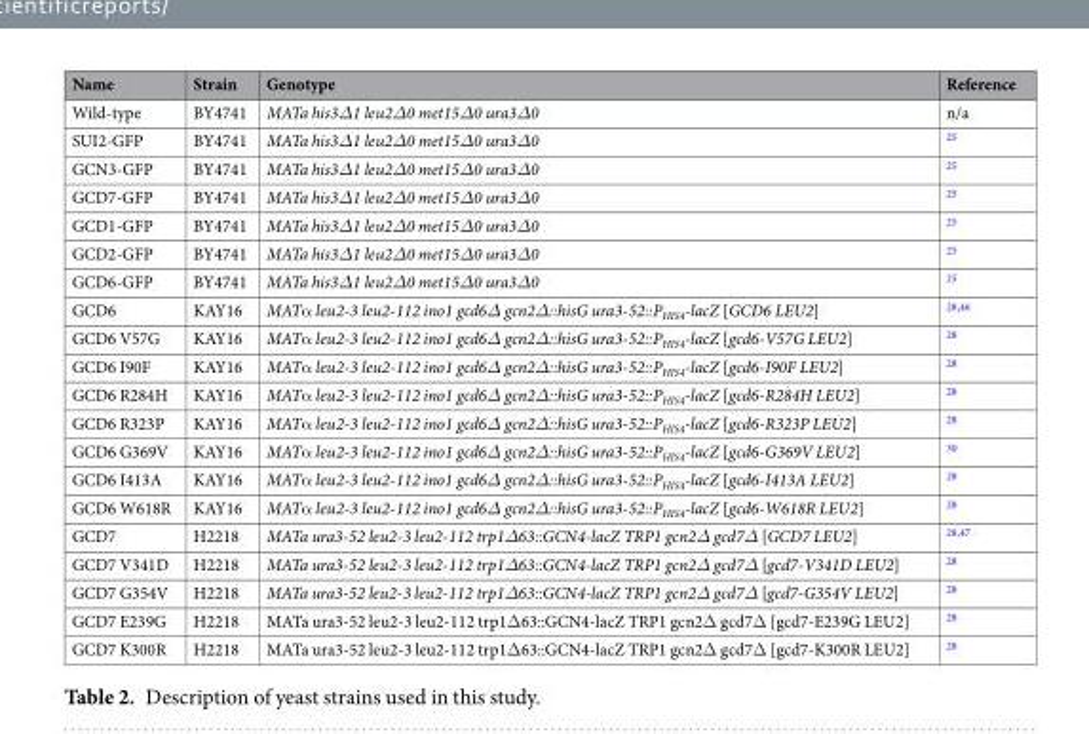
<table><thead><tr><td>Name</td><td>Strain</td><td>Genotype</td><td>Reference</td></tr></thead><tbody><tr><td>Wild-type</td><td>BY4741</td><td>MATa his3Δ1 leu2Δ0 met15Δ0 ura3Δ0</td><td>n/a</td></tr><tr><td>SUI2-GFP</td><td>BY4741</td><td>MATa his3Δ1 leu2Δ0 met15Δ0 ura3Δ0</td><td><sup>25</sup></td></tr><tr><td>GCN3-GFP</td><td>BY4741</td><td>MATa his3Δ1 leu2Δ0 met15Δ0 ura3Δ0</td><td><sup>25</sup></td></tr><tr><td>GCD7-GFP</td><td>BY4741</td><td>MATa his3Δ1 leu2Δ0 met15Δ0 ura3Δ0</td><td><sup>25</sup></td></tr><tr><td>GCD1-GFP</td><td>BY4741</td><td>MATa his3Δ1 leu2Δ0 met15Δ0 ura3Δ0</td><td><sup>25</sup></td></tr><tr><td>GCD2-GFP</td><td>BY4741</td><td>MATa his3Δ1 leu2Δ0 met15Δ0 ura3Δ0</td><td><sup>25</sup></td></tr><tr><td>GCD6-GFP</td><td>BY4741</td><td>MATa his3Δ1 leu2Δ0 met15Δ0 ura3Δ0</td><td><sup>25</sup></td></tr><tr><td>GCD6</td><td>KAY16</td><td>MATα leu2-3 leu2-112 ino1 gcd6Δ gcn2Δ::hisG ura3-52::P<sub>HIS4</sub>-lacZ [GCD6 LEU2]</td><td><sup>28,46</sup></td></tr><tr><td>GCD6 V57G</td><td>KAY16</td><td>MATα leu2-3 leu2-112 ino1 gcd6Δ gcn2Δ::hisG ura3-52::P<sub>HIS4</sub>-lacZ [gcd6-V57G LEU2]</td><td><sup>28</sup></td></tr><tr><td>GCD6 I90F</td><td>KAY16</td><td>MATα leu2-3 leu2-112 ino1 gcd6Δ gcn2Δ::hisG ura3-52::P<sub>HIS4</sub>-lacZ [gcd6-I90F LEU2]</td><td><sup>28</sup></td></tr><tr><td>GCD6 R284H</td><td>KAY16</td><td>MATα leu2-3 leu2-112 ino1 gcd6Δ gcn2Δ::hisG ura3-52::P<sub>HIS4</sub>-lacZ [gcd6-R284H LEU2]</td><td><sup>28</sup></td></tr><tr><td>GCD6 R323P</td><td>KAY16</td><td>MATα leu2-3 leu2-112 ino1 gcd6Δ gcn2Δ::hisG ura3-52::P<sub>HIS4</sub>-lacZ [gcd6-R323P LEU2]</td><td><sup>28</sup></td></tr><tr><td>GCD6 G369V</td><td>KAY16</td><td>MATα leu2-3 leu2-112 ino1 gcd6Δ gcn2Δ::hisG ura3-52::P<sub>HIS4</sub>-lacZ [gcd6-G369V LEU2]</td><td><sup>30</sup></td></tr><tr><td>GCD6 I413A</td><td>KAY16</td><td>MATα leu2-3 leu2-112 ino1 gcd6Δ gcn2Δ::hisG ura3-52::P<sub>HIS4</sub>-lacZ [gcd6-I413A LEU2]</td><td><sup>28</sup></td></tr><tr><td>GCD6 W618R</td><td>KAY16</td><td>MATα leu2-3 leu2-112 ino1 gcd6Δ gcn2Δ::hisG ura3-52::P<sub>HIS4</sub>-lacZ [gcd6-W618R LEU2]</td><td><sup>28</sup></td></tr><tr><td>GCD7</td><td>H2218</td><td>MATa ura3-52 leu2-3 leu2-112 trp1Δ63::GCN4-lacZ TRP1 gcn2Δ gcd7Δ [GCD7 LEU2]</td><td><sup>28,47</sup></td></tr><tr><td>GCD7 V341D</td><td>H2218</td><td>MATa ura3-52 leu2-3 leu2-112 trp1Δ63::GCN4-lacZ TRP1 gcn2Δ gcd7Δ [gcd7-V341D LEU2]</td><td><sup>28</sup></td></tr><tr><td>GCD7 G354V</td><td>H2218</td><td>MATa ura3-52 leu2-3 leu2-112 trp1Δ63::GCN4-lacZ TRP1 gcn2Δ gcd7Δ [gcd7-G354V LEU2]</td><td><sup>28</sup></td></tr><tr><td>GCD7 E239G</td><td>H2218</td><td>MATa ura3-52 leu2-3 leu2-112 trp1Δ63::GCN4-lacZ TRP1 gcn2Δ gcd7Δ [gcd7-E239G LEU2]</td><td><sup>28</sup></td></tr><tr><td>GCD7 K300R</td><td>H2218</td><td>MATa ura3-52 leu2-3 leu2-112 trp1Δ63::GCN4-lacZ TRP1 gcn2Δ gcd7Δ [gcd7-K300R LEU2]</td><td><sup>28</sup></td></tr></tbody></table>